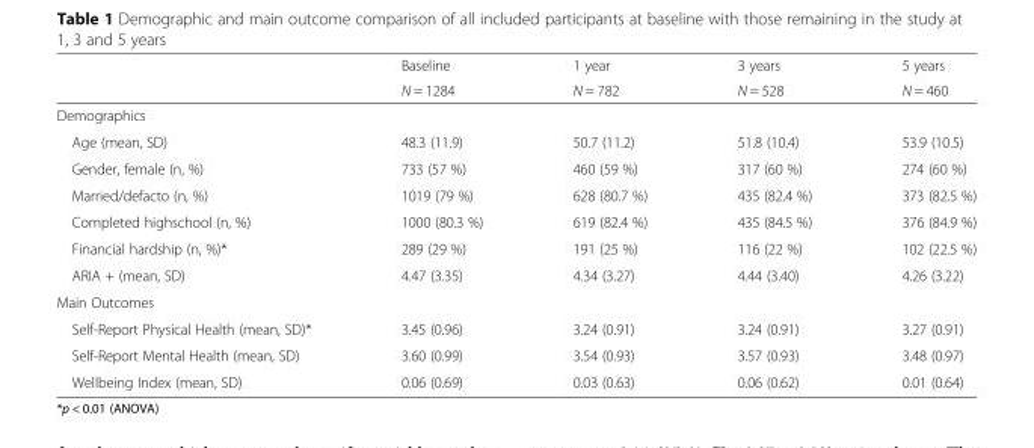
<table><thead><tr><td rowspan="2"></td><td rowspan="2">Baseline N = 1284</td><td rowspan="2">1 year N = 782</td><td rowspan="2">3 years N = 528</td><td rowspan="2">5 years N = 460</td></tr><tr></tr></thead><tbody><tr><td colspan="5">Demographics</td></tr><tr><td>Age (mean, SD)</td><td>48.3 (11.9)</td><td>50.7 (11.2)</td><td>51.8 (10.4)</td><td>53.9 (10.5)</td></tr><tr><td>Gender, female (n, %)</td><td>733 (57 %)</td><td>460 (59 %)</td><td>317 (60 %)</td><td>274 (60 %)</td></tr><tr><td>Married/defacto (n, %)</td><td>1019 (79 %)</td><td>628 (80.7 %)</td><td>435 (82.4 %)</td><td>373 (82.5 %)</td></tr><tr><td>Completed highschool (n, %)</td><td>1000 (80.3 %)</td><td>619 (82.4 %)</td><td>435 (84.5 %)</td><td>376 (84.9 %)</td></tr><tr><td>Financial hardship (n, %)*</td><td>289 (29 %)</td><td>191 (25 %)</td><td>116 (22 %)</td><td>102 (22.5 %)</td></tr><tr><td>ARIA + (mean, SD)</td><td>4.47 (3.35)</td><td>4.34 (3.27)</td><td>4.44 (3.40)</td><td>4.26 (3.22)</td></tr><tr><td colspan="5">Main Outcomes</td></tr><tr><td>Self-Report Physical Health (mean, SD)*</td><td>3.45 (0.96)</td><td>3.24 (0.91)</td><td>3.24 (0.91)</td><td>3.27 (0.91)</td></tr><tr><td>Self-Report Mental Health (mean, SD)</td><td>3.60 (0.99)</td><td>3.54 (0.93)</td><td>3.57 (0.93)</td><td>3.48 (0.97)</td></tr><tr><td>Wellbeing Index (mean, SD)</td><td>0.06 (0.69)</td><td>0.03 (0.63)</td><td>0.06 (0.62)</td><td>0.01 (0.64)</td></tr></tbody></table>